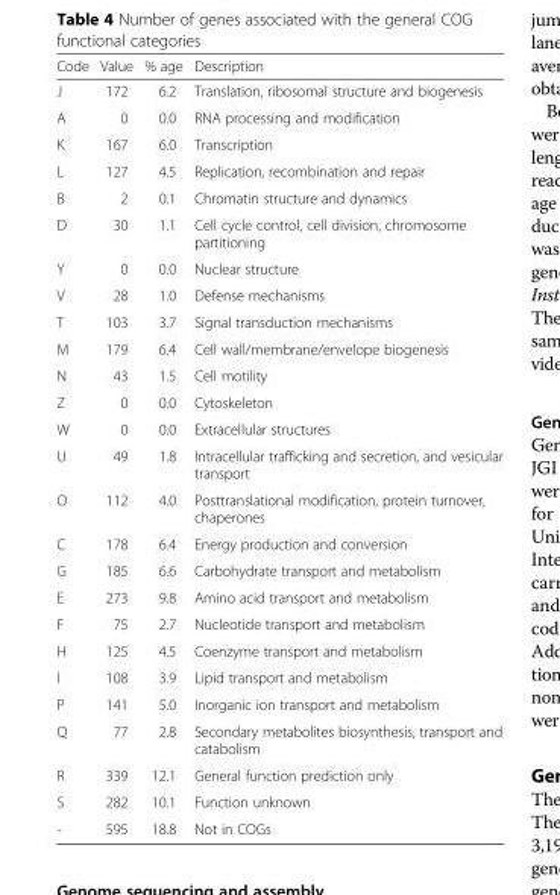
<table><thead><tr><td>Code</td><td>Value</td><td>% age</td><td>Description</td></tr></thead><tbody><tr><td>J</td><td>172</td><td>6.2</td><td>Translation, ribosomal structure and biogenesis</td></tr><tr><td>A</td><td>0</td><td>0.0</td><td>RNA processing and modification</td></tr><tr><td>K</td><td>167</td><td>6.0</td><td>Transcription</td></tr><tr><td>L</td><td>127</td><td>4.5</td><td>Replication, recombination and repair</td></tr><tr><td>B</td><td>2</td><td>0.1</td><td>Chromatin structure and dynamics</td></tr><tr><td>D</td><td>30</td><td>1.1</td><td>Cell cycle control, cell division, chromosome partitioning</td></tr><tr><td>Y</td><td>0</td><td>0.0</td><td>Nuclear structure</td></tr><tr><td>V</td><td>28</td><td>1.0</td><td>Defense mechanisms</td></tr><tr><td>T</td><td>103</td><td>3.7</td><td>Signal transduction mechanisms</td></tr><tr><td>M</td><td>179</td><td>6.4</td><td>Cell wall/membrane/envelope biogenesis</td></tr><tr><td>N</td><td>43</td><td>1.5</td><td>Cell motility</td></tr><tr><td>Z</td><td>0</td><td>0.0</td><td>Cytoskeleton</td></tr><tr><td>W</td><td>0</td><td>0.0</td><td>Extracellular structures</td></tr><tr><td>U</td><td>49</td><td>1.8</td><td>Intracellular trafficking and secretion, and vesicular transport</td></tr><tr><td>O</td><td>112</td><td>4.0</td><td>Posttranslational modification, protein turnover, chaperones</td></tr><tr><td>C</td><td>178</td><td>6.4</td><td>Energy production and conversion</td></tr><tr><td>G</td><td>185</td><td>6.6</td><td>Carbohydrate transport and metabolism</td></tr><tr><td>E</td><td>273</td><td>9.8</td><td>Amino acid transport and metabolism</td></tr><tr><td>F</td><td>75</td><td>2.7</td><td>Nucleotide transport and metabolism</td></tr><tr><td>H</td><td>125</td><td>4.5</td><td>Coenzyme transport and metabolism</td></tr><tr><td>I</td><td>108</td><td>3.9</td><td>Lipid transport and metabolism</td></tr><tr><td>P</td><td>141</td><td>5.0</td><td>Inorganic ion transport and metabolism</td></tr><tr><td>Q</td><td>77</td><td>2.8</td><td>Secondary metabolites biosynthesis, transport and catabolism</td></tr><tr><td>R</td><td>339</td><td>12.1</td><td>General function prediction only</td></tr><tr><td>S</td><td>282</td><td>10.1</td><td>Function unknown</td></tr><tr><td>-</td><td>595</td><td>18.8</td><td>Not in COGs</td></tr></tbody></table>